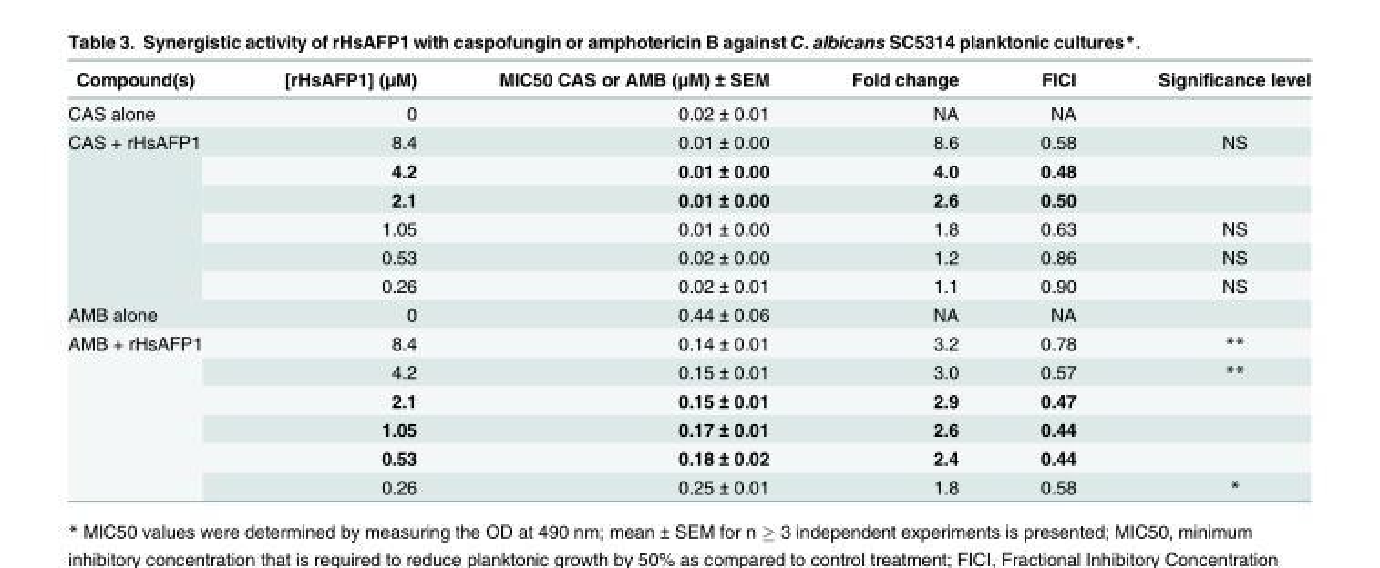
<table><thead><tr><td>Compound(s)</td><td>[rHsAFP1] (μM)</td><td>MIC50 CAS or AMB (μM) ± SEM</td><td>Fold change</td><td>FICI</td><td>Significance level</td></tr></thead><tbody><tr><td>CAS alone</td><td>0</td><td>0.02 ± 0.01</td><td>NA</td><td>NA</td><td></td></tr><tr><td rowspan="6">CAS + rHsAFP1</td><td>8.4</td><td>0.01 ± 0.00</td><td>8.6</td><td>0.58</td><td>NS</td></tr><tr><td>4.2</td><td>0.01 ± 0.00</td><td>4.0</td><td>0.48</td><td></td></tr><tr><td>2.1</td><td>0.01 ± 0.00</td><td>2.6</td><td>0.50</td><td></td></tr><tr><td>1.05</td><td>0.01 ± 0.00</td><td>1.8</td><td>0.63</td><td>NS</td></tr><tr><td>0.53</td><td>0.02 ± 0.00</td><td>1.2</td><td>0.86</td><td>NS</td></tr><tr><td>0.26</td><td>0.02 ± 0.01</td><td>1.1</td><td>0.90</td><td>NS</td></tr><tr><td>AMB alone</td><td>0</td><td>0.44 ± 0.06</td><td>NA</td><td>NA</td><td></td></tr><tr><td rowspan="6">AMB + rHsAFP1</td><td>8.4</td><td>0.14 ± 0.01</td><td>3.2</td><td>0.78</td><td>**</td></tr><tr><td>4.2</td><td>0.15 ± 0.01</td><td>3.0</td><td>0.57</td><td>**</td></tr><tr><td>2.1</td><td>0.15 ± 0.01</td><td>2.9</td><td>0.47</td><td></td></tr><tr><td>1.05</td><td>0.17 ± 0.01</td><td>2.6</td><td>0.44</td><td></td></tr><tr><td>0.53</td><td>0.18 ± 0.02</td><td>2.4</td><td>0.44</td><td></td></tr><tr><td>0.26</td><td>0.25 ± 0.01</td><td>1.8</td><td>0.58</td><td>*</td></tr></tbody></table>